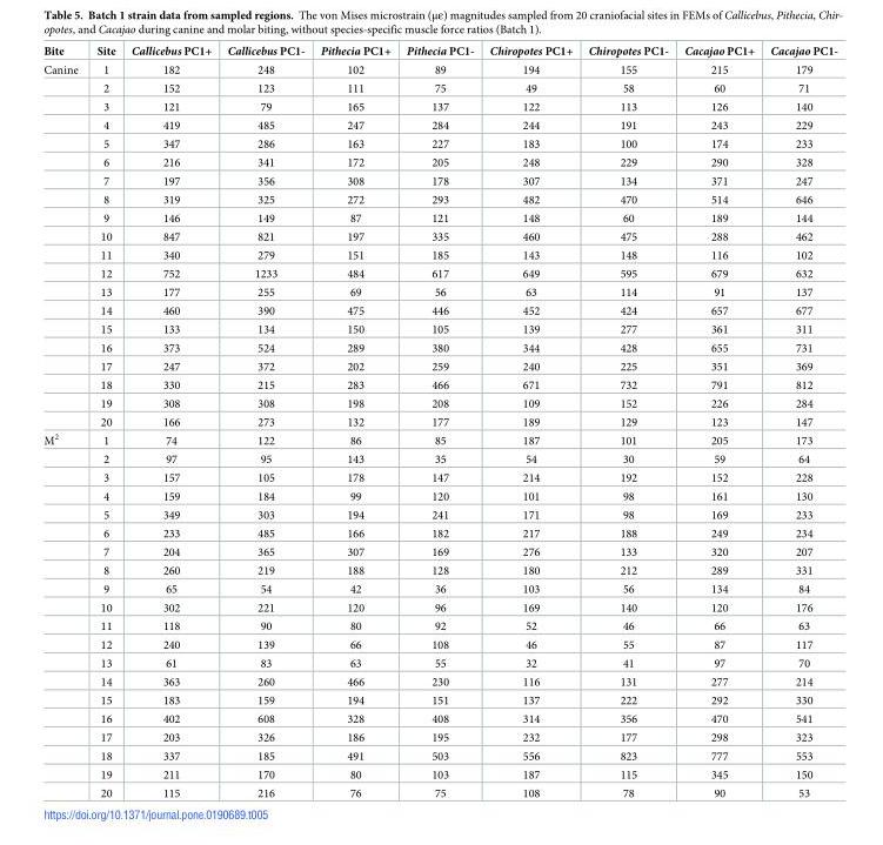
<table><thead><tr><td>Bite</td><td>Site</td><td>Callicebus PC1+</td><td>Callicebus PC1-</td><td>Pithecia PC1+</td><td>Pithecia PC1-</td><td>Chiropotes PC1+</td><td>Chiropotes PC1-</td><td>Cacajao PC1+</td><td>Cacajao PC1-</td></tr></thead><tbody><tr><td rowspan="20">Canine</td><td>1</td><td>182</td><td>248</td><td>102</td><td>89</td><td>194</td><td>155</td><td>215</td><td>179</td></tr><tr><td>2</td><td>152</td><td>123</td><td>111</td><td>75</td><td>49</td><td>58</td><td>60</td><td>71</td></tr><tr><td>3</td><td>121</td><td>79</td><td>165</td><td>137</td><td>122</td><td>113</td><td>126</td><td>140</td></tr><tr><td>4</td><td>419</td><td>485</td><td>247</td><td>284</td><td>244</td><td>191</td><td>243</td><td>229</td></tr><tr><td>5</td><td>347</td><td>286</td><td>163</td><td>227</td><td>183</td><td>100</td><td>174</td><td>233</td></tr><tr><td>6</td><td>216</td><td>341</td><td>172</td><td>205</td><td>248</td><td>229</td><td>290</td><td>328</td></tr><tr><td>7</td><td>197</td><td>356</td><td>308</td><td>178</td><td>307</td><td>134</td><td>371</td><td>247</td></tr><tr><td>8</td><td>319</td><td>325</td><td>272</td><td>293</td><td>482</td><td>470</td><td>514</td><td>646</td></tr><tr><td>9</td><td>146</td><td>149</td><td>87</td><td>121</td><td>148</td><td>60</td><td>189</td><td>144</td></tr><tr><td>10</td><td>847</td><td>821</td><td>197</td><td>335</td><td>460</td><td>475</td><td>288</td><td>462</td></tr><tr><td>11</td><td>340</td><td>279</td><td>151</td><td>185</td><td>143</td><td>148</td><td>116</td><td>102</td></tr><tr><td>12</td><td>752</td><td>1233</td><td>484</td><td>617</td><td>649</td><td>595</td><td>679</td><td>632</td></tr><tr><td>13</td><td>177</td><td>255</td><td>69</td><td>56</td><td>63</td><td>114</td><td>91</td><td>137</td></tr><tr><td>14</td><td>460</td><td>390</td><td>475</td><td>446</td><td>452</td><td>424</td><td>657</td><td>677</td></tr><tr><td>15</td><td>133</td><td>134</td><td>150</td><td>105</td><td>139</td><td>277</td><td>361</td><td>311</td></tr><tr><td>16</td><td>373</td><td>524</td><td>289</td><td>380</td><td>344</td><td>428</td><td>655</td><td>731</td></tr><tr><td>17</td><td>247</td><td>372</td><td>202</td><td>259</td><td>240</td><td>225</td><td>351</td><td>369</td></tr><tr><td>18</td><td>330</td><td>215</td><td>283</td><td>466</td><td>671</td><td>732</td><td>791</td><td>812</td></tr><tr><td>19</td><td>308</td><td>308</td><td>198</td><td>208</td><td>109</td><td>152</td><td>226</td><td>284</td></tr><tr><td>20</td><td>166</td><td>273</td><td>132</td><td>177</td><td>189</td><td>129</td><td>123</td><td>147</td></tr><tr><td rowspan="20">M<sup>2</sup></td><td>1</td><td>74</td><td>122</td><td>86</td><td>85</td><td>187</td><td>101</td><td>205</td><td>173</td></tr><tr><td>2</td><td>97</td><td>95</td><td>143</td><td>35</td><td>54</td><td>30</td><td>59</td><td>64</td></tr><tr><td>3</td><td>157</td><td>105</td><td>178</td><td>147</td><td>214</td><td>192</td><td>152</td><td>228</td></tr><tr><td>4</td><td>159</td><td>184</td><td>99</td><td>120</td><td>101</td><td>98</td><td>161</td><td>130</td></tr><tr><td>5</td><td>349</td><td>303</td><td>194</td><td>241</td><td>171</td><td>98</td><td>169</td><td>233</td></tr><tr><td>6</td><td>233</td><td>485</td><td>166</td><td>182</td><td>217</td><td>188</td><td>249</td><td>234</td></tr><tr><td>7</td><td>204</td><td>365</td><td>307</td><td>169</td><td>276</td><td>133</td><td>320</td><td>207</td></tr><tr><td>8</td><td>260</td><td>219</td><td>188</td><td>128</td><td>180</td><td>212</td><td>289</td><td>331</td></tr><tr><td>9</td><td>65</td><td>54</td><td>42</td><td>36</td><td>103</td><td>56</td><td>134</td><td>84</td></tr><tr><td>10</td><td>302</td><td>221</td><td>120</td><td>96</td><td>169</td><td>140</td><td>120</td><td>176</td></tr><tr><td>11</td><td>118</td><td>90</td><td>80</td><td>92</td><td>52</td><td>46</td><td>66</td><td>63</td></tr><tr><td>12</td><td>240</td><td>139</td><td>66</td><td>108</td><td>46</td><td>55</td><td>87</td><td>117</td></tr><tr><td>13</td><td>61</td><td>83</td><td>63</td><td>55</td><td>32</td><td>41</td><td>97</td><td>70</td></tr><tr><td>14</td><td>363</td><td>260</td><td>466</td><td>230</td><td>116</td><td>131</td><td>277</td><td>214</td></tr><tr><td>15</td><td>183</td><td>159</td><td>194</td><td>151</td><td>137</td><td>222</td><td>292</td><td>330</td></tr><tr><td>16</td><td>402</td><td>608</td><td>328</td><td>408</td><td>314</td><td>356</td><td>470</td><td>541</td></tr><tr><td>17</td><td>203</td><td>326</td><td>186</td><td>195</td><td>232</td><td>177</td><td>298</td><td>323</td></tr><tr><td>18</td><td>337</td><td>185</td><td>491</td><td>503</td><td>556</td><td>823</td><td>777</td><td>553</td></tr><tr><td>19</td><td>211</td><td>170</td><td>80</td><td>103</td><td>187</td><td>115</td><td>345</td><td>150</td></tr><tr><td>20</td><td>115</td><td>216</td><td>76</td><td>75</td><td>108</td><td>78</td><td>90</td><td>53</td></tr></tbody></table>